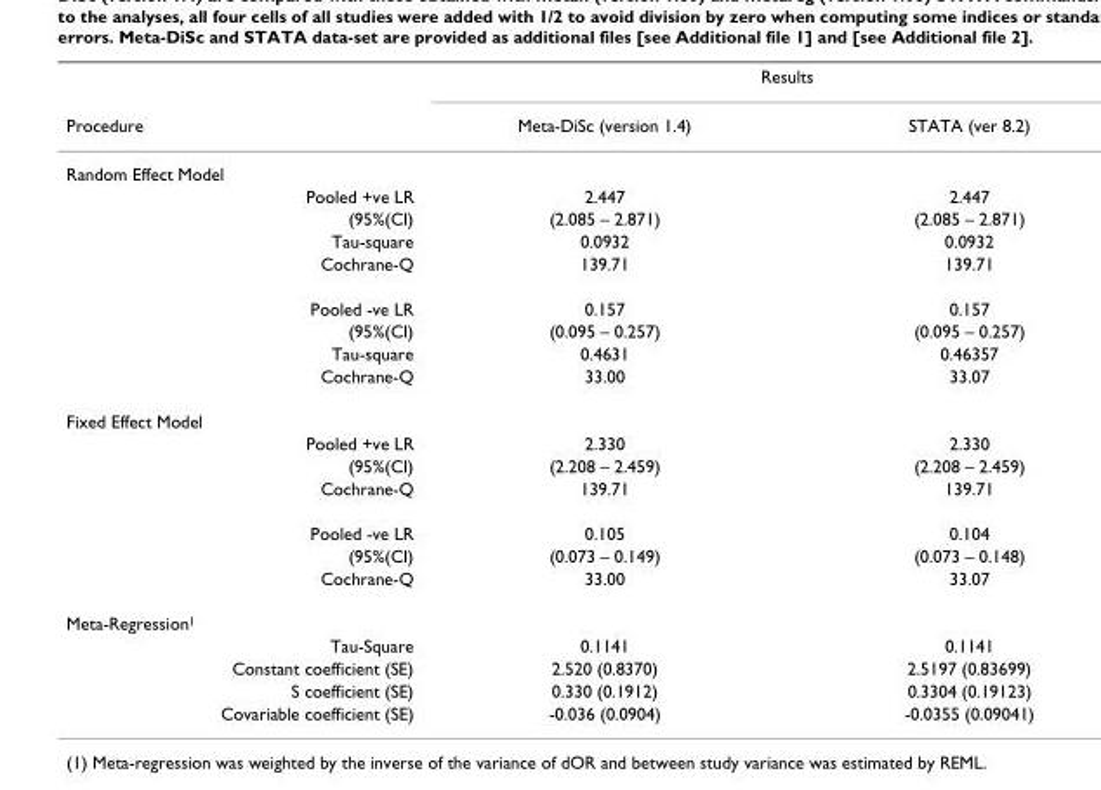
<table><thead><tr><td rowspan="2">Procedure</td><td colspan="2">Results</td></tr><tr><td>Meta-DiSc (version 1.4)</td><td>STATA (ver 8.2)</td></tr></thead><tbody><tr><td colspan="3">Random Effect Model</td></tr><tr><td>Pooled +ve LR</td><td>2.447</td><td>2.447</td></tr><tr><td>(95%(CI)</td><td>(2.085 – 2.871)</td><td>(2.085 – 2.871)</td></tr><tr><td>Tau-square</td><td>0.0932</td><td>0.0932</td></tr><tr><td>Cochrane-Q</td><td>139.71</td><td>139.71</td></tr><tr><td>Pooled -ve LR</td><td>0.157</td><td>0.157</td></tr><tr><td>(95%(CI)</td><td>(0.095 – 0.257)</td><td>(0.095 – 0.257)</td></tr><tr><td>Tau-square</td><td>0.4631</td><td>0.46357</td></tr><tr><td>Cochrane-Q</td><td>33.00</td><td>33.07</td></tr><tr><td colspan="3">Fixed Effect Model</td></tr><tr><td>Pooled +ve LR</td><td>2.330</td><td>2.330</td></tr><tr><td>(95%(CI)</td><td>(2.208 – 2.459)</td><td>(2.208 – 2.459)</td></tr><tr><td>Cochrane-Q</td><td>139.71</td><td>139.71</td></tr><tr><td>Pooled -ve LR</td><td>0.105</td><td>0.104</td></tr><tr><td>(95%(CI)</td><td>(0.073 – 0.149)</td><td>(0.073 – 0.148)</td></tr><tr><td>Cochrane-Q</td><td>33.00</td><td>33.07</td></tr><tr><td colspan="3">Meta-Regression<sup>1</sup></td></tr><tr><td>Tau-Square</td><td>0.1141</td><td>0.1141</td></tr><tr><td>Constant coefficient (SE)</td><td>2.520 (0.8370)</td><td>2.5197 (0.83699)</td></tr><tr><td>S coefficient (SE)</td><td>0.330 (0.1912)</td><td>0.3304 (0.19123)</td></tr><tr><td>Covariable coefficient (SE)</td><td>-0.036 (0.0904)</td><td>-0.0355 (0.09041)</td></tr></tbody></table>